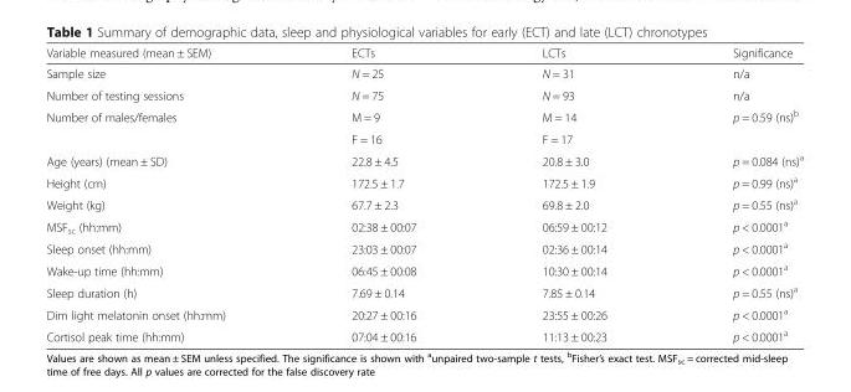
<table><thead><tr><td>Variable measured (mean ± SEM)</td><td>ECTs</td><td>LCTs</td><td>Significance</td></tr></thead><tbody><tr><td>Sample size</td><td>N = 25</td><td>N = 31</td><td>n/a</td></tr><tr><td>Number of testing sessions</td><td>N = 75</td><td>N = 93</td><td>n/a</td></tr><tr><td rowspan="2">Number of males/females</td><td>M = 9</td><td>M = 14</td><td rowspan="2">p = 0.59 (ns)<sup>b</sup></td></tr><tr><td>F = 16</td><td>F = 17</td></tr><tr><td>Age (years) (mean ± SD)</td><td>22.8 ± 4.5</td><td>20.8 ± 3.0</td><td>p = 0.084 (ns)<sup>a</sup></td></tr><tr><td>Height (cm)</td><td>172.5 ± 1.7</td><td>172.5 ± 1.9</td><td>p = 0.99 (ns)<sup>a</sup></td></tr><tr><td>Weight (kg)</td><td>67.7 ± 2.3</td><td>69.8 ± 2.0</td><td>p = 0.55 (ns)<sup>a</sup></td></tr><tr><td>MSF<sub>sc</sub> (hh:mm)</td><td>02:38 ± 00:07</td><td>06:59 ± 00:12</td><td>p &lt; 0.0001<sup>a</sup></td></tr><tr><td>Sleep onset (hh:mm)</td><td>23:03 ± 00:07</td><td>02:36 ± 00:14</td><td>p &lt; 0.0001<sup>a</sup></td></tr><tr><td>Wake-up time (hh:mm)</td><td>06:45 ± 00:08</td><td>10:30 ± 00:14</td><td>p &lt; 0.0001<sup>a</sup></td></tr><tr><td>Sleep duration (h)</td><td>7.69 ± 0.14</td><td>7.85 ± 0.14</td><td>p = 0.55 (ns)<sup>a</sup></td></tr><tr><td>Dim light melatonin onset (hh:mm)</td><td>20:27 ± 00:16</td><td>23:55 ± 00:26</td><td>p &lt; 0.0001<sup>a</sup></td></tr><tr><td>Cortisol peak time (hh:mm)</td><td>07:04 ± 00:16</td><td>11:13 ± 00:23</td><td>p &lt; 0.0001<sup>a</sup></td></tr></tbody></table>